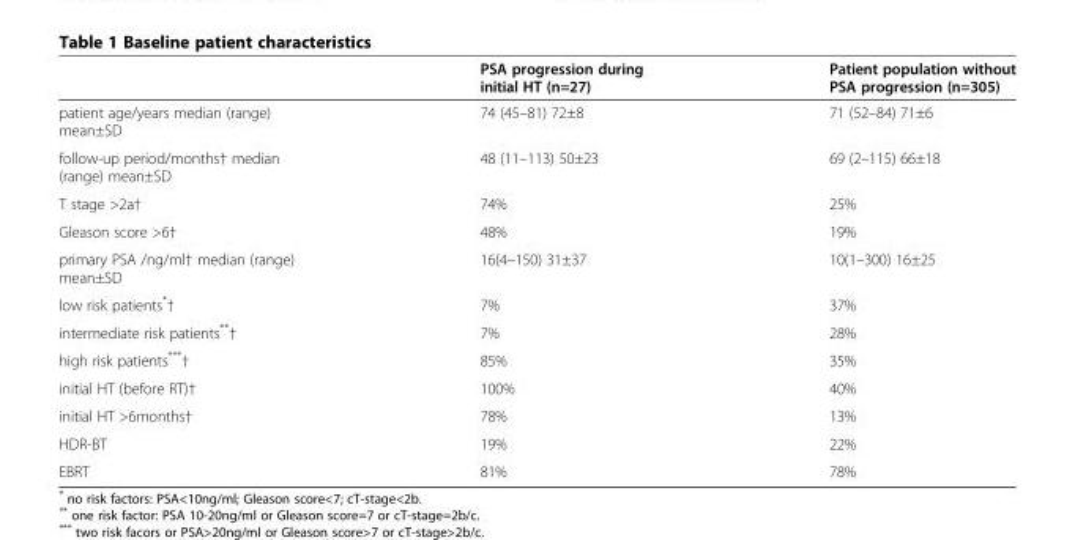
<table><thead><tr><td></td><td>PSA progression during initial HT (n=27)</td><td>Patient population without PSA progression (n=305)</td></tr></thead><tbody><tr><td>patient age/years median (range) mean±SD</td><td>74 (45–81) 72±8</td><td>71 (52–84) 71±6</td></tr><tr><td>follow-up period/months† median (range) mean±SD</td><td>48 (11–113) 50±23</td><td>69 (2–115) 66±18</td></tr><tr><td>T stage &gt;2a†</td><td>74%</td><td>25%</td></tr><tr><td>Gleason score &gt;6†</td><td>48%</td><td>19%</td></tr><tr><td>primary PSA /ng/ml† median (range) mean±SD</td><td>16(4–150) 31±37</td><td>10(1–300) 16±25</td></tr><tr><td>low risk patients*†</td><td>7%</td><td>37%</td></tr><tr><td>intermediate risk patients**†</td><td>7%</td><td>28%</td></tr><tr><td>high risk patients***†</td><td>85%</td><td>35%</td></tr><tr><td>initial HT (before RT)†</td><td>100%</td><td>40%</td></tr><tr><td>initial HT &gt;6months†</td><td>78%</td><td>13%</td></tr><tr><td>HDR-BT</td><td>19%</td><td>22%</td></tr><tr><td>EBRT</td><td>81%</td><td>78%</td></tr></tbody></table>